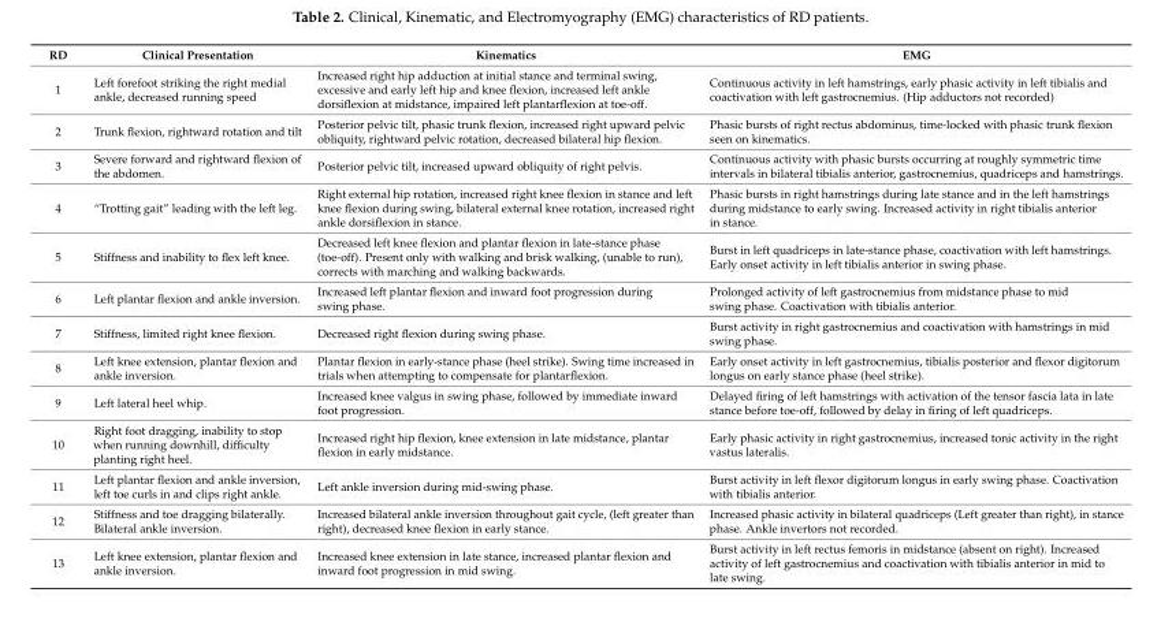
<table><thead><tr><td>RD</td><td>Clinical Presentation</td><td>Kinematics</td><td>EMG</td></tr></thead><tbody><tr><td>1</td><td>Left forefoot striking the right medial ankle, decreased running speed</td><td>Increased right hip adduction at initial stance and terminal swing, excessive and early left hip and knee flexion, increased left ankle dorsiflexion at midstance, impaired left plantarflexion at toe-off.</td><td>Continuous activity in left hamstrings, early phasic activity in left tibialis and coactivation with left gastrocnemius. (Hip adductors not recorded)</td></tr><tr><td>2</td><td>Trunk flexion, rightward rotation and tilt</td><td>Posterior pelvic tilt, phasic trunk flexion, increased right upward pelvic obliquity, rightward pelvic rotation, decreased bilateral hip flexion.</td><td>Phasic bursts of right rectus abdominus, time-locked with phasic trunk flexion seen on kinematics.</td></tr><tr><td>3</td><td>Severe forward and rightward flexion of the abdomen.</td><td>Posterior pelvic tilt, increased upward obliquity of right pelvis.</td><td>Continuous activity with phasic bursts occurring at roughly symmetric time intervals in bilateral tibialis anterior, gastrocnemius, quadriceps and hamstrings.</td></tr><tr><td>4</td><td>“Trotting gait” leading with the left leg.</td><td>Right external hip rotation, increased right knee flexion in stance and left knee flexion during swing, bilateral external knee rotation, increased right ankle dorsiflexion in stance.</td><td>Phasic bursts in right hamstrings during late stance and in the left hamstrings during midstance to early swing. Increased activity in right tibialis anterior in stance.</td></tr><tr><td>5</td><td>Stiffness and inability to flex left knee.</td><td>Decreased left knee flexion and plantar flexion in late-stance phase (toe-off). Present only with walking and brisk walking, (unable to run), corrects with marching and walking backwards.</td><td>Burst in left quadriceps in late-stance phase, coactivation with left hamstrings. Early onset activity in left tibialis anterior in swing phase.</td></tr><tr><td>6</td><td>Left plantar flexion and ankle inversion.</td><td>Increased left plantar flexion and inward foot progression during swing phase.</td><td>Prolonged activity of left gastrocnemius from midstance phase to mid swing phase. Coactivation with tibialis anterior.</td></tr><tr><td>7</td><td>Stiffness, limited right knee flexion.</td><td>Decreased right flexion during swing phase.</td><td>Burst activity in right gastrocnemius and coactivation with hamstrings in mid swing phase.</td></tr><tr><td>8</td><td>Left knee extension, plantar flexion and ankle inversion.</td><td>Plantar flexion in early-stance phase (heel strike). Swing time increased in trials when attempting to compensate for plantarflexion.</td><td>Early onset activity in left gastrocnemius, tibialis posterior and flexor digitorum longus on early stance phase (heel strike).</td></tr><tr><td>9</td><td>Left lateral heel whip.</td><td>Increased knee valgus in swing phase, followed by immediate inward foot progression.</td><td>Delayed firing of left hamstrings with activation of the tensor fascia lata in late stance before toe-off, followed by delay in firing of left quadriceps.</td></tr><tr><td>10</td><td>Right foot dragging, inability to stop when running downhill, difficulty planting right heel.</td><td>Increased right hip flexion, knee extension in late midstance, plantar flexion in early midstance.</td><td>Early phasic activity in right gastrocnemius, increased tonic activity in the right vastus lateralis.</td></tr><tr><td>11</td><td>Left plantar flexion and ankle inversion, left toe curls in and clips right ankle.</td><td>Left ankle inversion during mid-swing phase.</td><td>Burst activity in left flexor digitorum longus in early swing phase. Coactivation with tibialis anterior.</td></tr><tr><td>12</td><td>Stiffness and toe dragging bilaterally. Bilateral ankle inversion.</td><td>Increased bilateral ankle inversion throughout gait cycle, (left greater than right), decreased knee flexion in early stance.</td><td>Increased phasic activity in bilateral quadriceps (Left greater than right), in stance phase. Ankle invertors not recorded.</td></tr><tr><td>13</td><td>Left knee extension, plantar flexion and ankle inversion.</td><td>Increased knee extension in late stance, increased plantar flexion and inward foot progression in mid swing.</td><td>Burst activity in left rectus femoris in midstance (absent on right). Increased activity of left gastrocnemius and coactivation with tibialis anterior in mid to late swing.</td></tr></tbody></table>